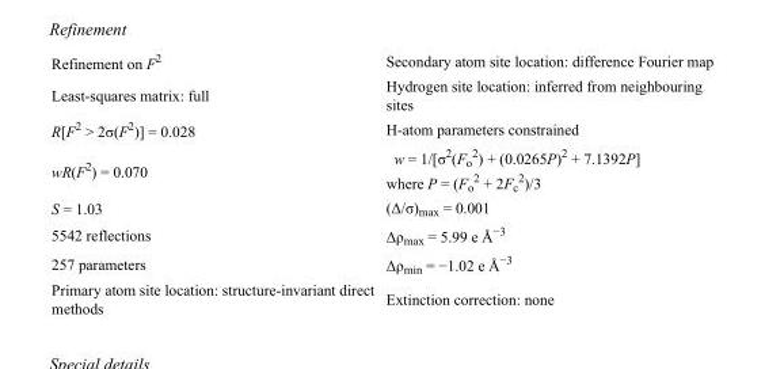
<table><tbody><tr><td>Refinement on F<sup>2</sup></td><td>Secondary atom site location: difference Fourier map</td></tr><tr><td>Least-squares matrix: full</td><td>Hydrogen site location: inferred from neighbouring sites</td></tr><tr><td>R[F<sup>2</sup> &gt; 2σ(F<sup>2</sup>)] = 0.028</td><td>H-atom parameters constrained</td></tr><tr><td>wR(F<sup>2</sup>) = 0.070</td><td>w = 1/[σ<sup>2</sup>(F<sub>o</sub> <sup>2</sup>) + (0.0265P)<sup>2</sup> + 7.1392P] where P = (F<sub>o</sub> <sup>2</sup> + 2F<sub>c</sub> <sup>2</sup>)/3</td></tr><tr><td>S = 1.03</td><td>(Δ/σ)<sub>max</sub> = 0.001</td></tr><tr><td>5542 reflections</td><td>Δρ<sub>max</sub> = 5.99 e Å<sup>−3</sup></td></tr><tr><td>257 parameters</td><td>Δρ<sub>min</sub> = −1.02 e Å<sup>−3</sup></td></tr><tr><td>Primary atom site location: structure-invariant direct methods</td><td>Extinction correction: none</td></tr></tbody></table>